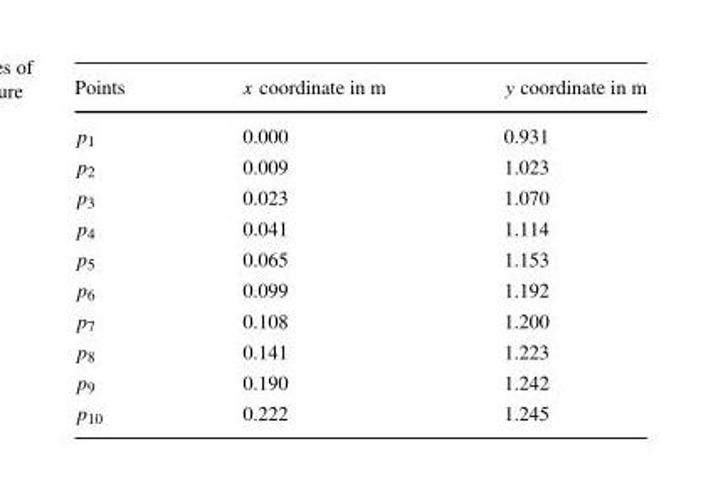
<table><thead><tr><td>Points</td><td>x coordinate in m</td><td>y coordinate in m</td></tr></thead><tbody><tr><td>p<sub>1</sub></td><td>0.000</td><td>0.931</td></tr><tr><td>p<sub>2</sub></td><td>0.009</td><td>1.023</td></tr><tr><td>p<sub>3</sub></td><td>0.023</td><td>1.070</td></tr><tr><td>p<sub>4</sub></td><td>0.041</td><td>1.114</td></tr><tr><td>p<sub>5</sub></td><td>0.065</td><td>1.153</td></tr><tr><td>p<sub>6</sub></td><td>0.099</td><td>1.192</td></tr><tr><td>p<sub>7</sub></td><td>0.108</td><td>1.200</td></tr><tr><td>p<sub>8</sub></td><td>0.141</td><td>1.223</td></tr><tr><td>p<sub>9</sub></td><td>0.190</td><td>1.242</td></tr><tr><td>p<sub>10</sub></td><td>0.222</td><td>1.245</td></tr></tbody></table>